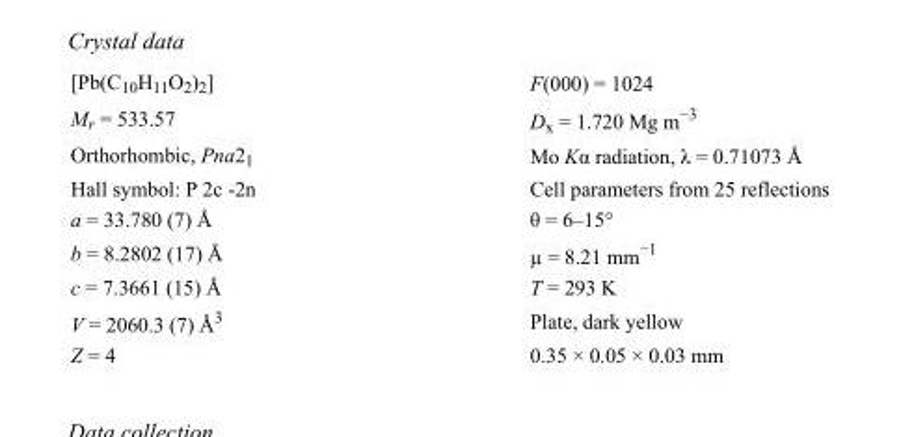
<table><tbody><tr><td>[Pb(C<sub>10</sub>H<sub>11</sub>O<sub>2</sub>)<sub>2</sub>]</td><td>F(000) = 1024</td></tr><tr><td>M<sub>r</sub> = 533.57</td><td>D<sub>x</sub> = 1.720 Mg m<sup>−3</sup></td></tr><tr><td>Orthorhombic, Pna2<sub>1</sub></td><td>Mo Kα radiation, λ = 0.71073 Å</td></tr><tr><td>Hall symbol: P 2c -2n</td><td>Cell parameters from 25 reflections</td></tr><tr><td>a = 33.780 (7) Å</td><td>θ = 6–15°</td></tr><tr><td>b = 8.2802 (17) Å</td><td>µ = 8.21 mm<sup>−1</sup></td></tr><tr><td>c = 7.3661 (15) Å</td><td>T = 293 K</td></tr><tr><td>V = 2060.3 (7) Å<sup>3</sup></td><td>Plate, dark yellow</td></tr><tr><td>Z = 4</td><td>0.35 × 0.05 × 0.03 mm</td></tr></tbody></table>